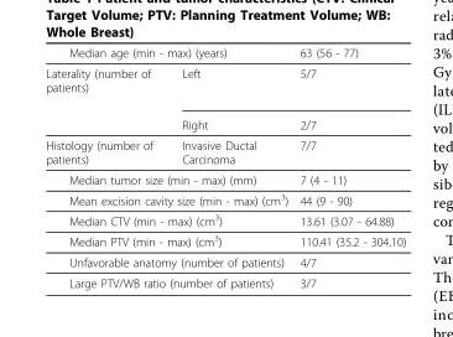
<table><thead><tr><td colspan="2">Median age (min - max) (years)</td><td rowspan="2">63 (56 - 77) 5/7</td></tr><tr><td>Laterality (number of patients)</td><td>Left</td></tr></thead><tbody><tr><td></td><td>Right</td><td>2/7</td></tr><tr><td>Histology (number of patients)</td><td>Invasive Ductal Carcinoma</td><td>7/7</td></tr><tr><td colspan="2">Median tumor size (min - max) (mm)</td><td>7 (4 - 11)</td></tr><tr><td colspan="2">Mean excision cavity size (min - max) (cm<sup>3</sup>)</td><td>44 (9 - 90)</td></tr><tr><td colspan="2">Median CTV (min - max) (cm<sup>3</sup>)</td><td>13.61 (3.07 - 64.88)</td></tr><tr><td colspan="2">Median PTV (min - max) (cm<sup>3</sup>)</td><td>110.41 (35.2 - 304.10)</td></tr><tr><td colspan="2">Unfavorable anatomy (number of patients)</td><td>4/7</td></tr><tr><td colspan="2">Large PTV/WB ratio (number of patients)</td><td>3/7</td></tr></tbody></table>